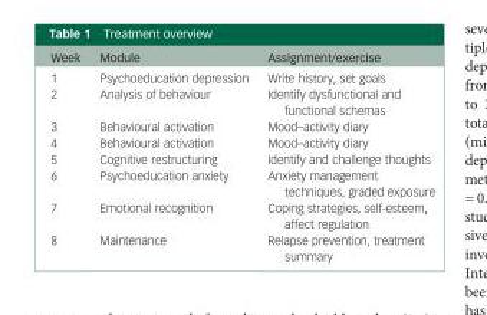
<table><thead><tr><td>Week</td><td>Module</td><td>Assignment/exercise</td></tr></thead><tbody><tr><td>1</td><td>Psychoeducation depression</td><td>Write history, set goals</td></tr><tr><td>2</td><td>Analysis of behaviour</td><td>Identify dysfunctional and functional schemas</td></tr><tr><td>3</td><td>Behavioural activation</td><td>Mood–activity diary</td></tr><tr><td>4</td><td>Behavioural activation</td><td>Mood–activity diary</td></tr><tr><td>5</td><td>Cognitive restructuring</td><td>Identify and challenge thoughts</td></tr><tr><td>6</td><td>Psychoeducation anxiety</td><td>Anxiety management techniques, graded exposure</td></tr><tr><td>7</td><td>Emotional recognition</td><td>Coping strategies, self-esteem, affect regulation</td></tr><tr><td>8</td><td>Maintenance</td><td>Relapse prevention, treatment summary</td></tr></tbody></table>